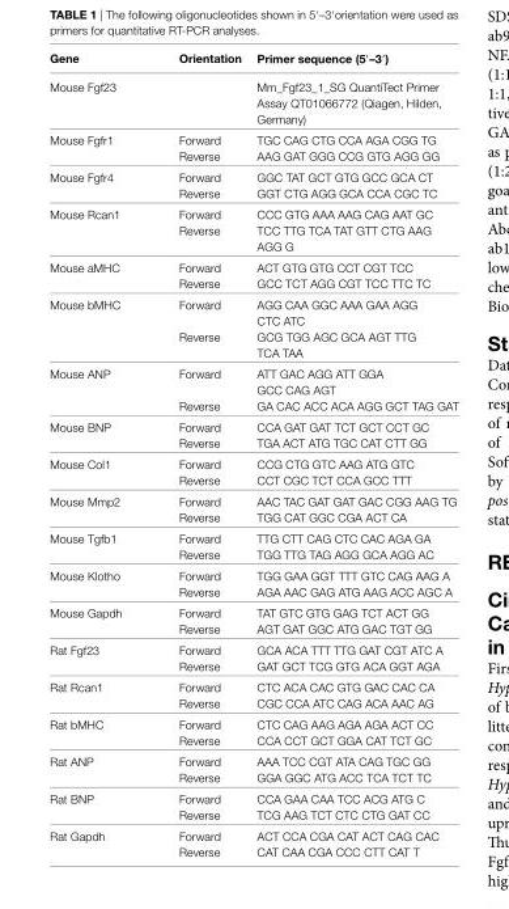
<table><thead><tr><td>gene</td><td>Orientation</td><td>Primer sequence (5′–3′)</td></tr></thead><tbody><tr><td>Mouse Fgf23</td><td></td><td>Mm_Fgf23_1_SG QuantiTect Primer Assay QT01066772 (Qiagen, Hilden, Germany)</td></tr><tr><td rowspan="2">Mouse Fgfr1</td><td>Forward</td><td>TGC CAG CTG CCA AGA CGG TG</td></tr><tr><td>Reverse</td><td>AAG GAT GGG CCG GTG AGG GG</td></tr><tr><td rowspan="2">Mouse Fgfr4</td><td>Forward</td><td>GGC TAT GCT GTG GCC GCA CT</td></tr><tr><td>Reverse</td><td>GGT CTG AGG GCA CCA CGC TC</td></tr><tr><td rowspan="2">Mouse Rcan1</td><td>Forward</td><td>CCC GTG AAA AAG CAG AAT GC</td></tr><tr><td>Reverse</td><td>TCC TTG TCA TAT GTT CTG AAG AGG G</td></tr><tr><td rowspan="2">Mouse aMHC</td><td>Forward</td><td>ACT GTG GTG CCT CGT TCC</td></tr><tr><td>Reverse</td><td>GCC TCT AGG CGT TCC TTC TC</td></tr><tr><td rowspan="2">Mouse bMHC</td><td>Forward</td><td>AGG CAA GGC AAA GAA AGG CTC ATC</td></tr><tr><td>Reverse</td><td>GCG TGG AGC GCA AGT TTG TCA TAA</td></tr><tr><td rowspan="2">Mouse ANP</td><td>Forward</td><td>ATT GAC AGG ATT GGA GCC CAG AGT</td></tr><tr><td>Reverse</td><td>GA CAC ACC ACA AGG GCT TAG GAT</td></tr><tr><td rowspan="2">Mouse BNP</td><td>Forward</td><td>CCA GAT GAT TCT GCT CCT GC</td></tr><tr><td>Reverse</td><td>TGA ACT ATG TGC CAT CTT GG</td></tr><tr><td rowspan="2">Mouse Col1</td><td>Forward</td><td>CCG CTG GTC AAG ATG GTC</td></tr><tr><td>Reverse</td><td>CCT CGC TCT CCA GCC TTT</td></tr><tr><td rowspan="2">Mouse Mmp2</td><td>Forward</td><td>AAC TAC GAT GAT GAC CGG AAG TG</td></tr><tr><td>Reverse</td><td>TGG CAT GGC CGA ACT CA</td></tr><tr><td rowspan="2">Mouse Tgfb1</td><td>Forward</td><td>TTG CTT CAG CTC CAC AGA GA</td></tr><tr><td>Reverse</td><td>TGG TTG TAG AGG GCA AGG AC</td></tr><tr><td rowspan="2">Mouse Klotho</td><td>Forward</td><td>TGG GAA GGT TTT GTC CAG AAG A</td></tr><tr><td>Reverse</td><td>AGA AAC GAG ATG AAG ACC AGC A</td></tr><tr><td rowspan="2">Mouse Gapdh</td><td>Forward</td><td>TAT GTC GTG GAG TCT ACT GG</td></tr><tr><td>Reverse</td><td>AGT GAT GGC ATG GAC TGT GG</td></tr><tr><td rowspan="2">Rat Fgf23</td><td>Forward</td><td>GCA ACA TTT TTG GAT CGT ATC A</td></tr><tr><td>Reverse</td><td>GAT GCT TCG GTG ACA GGT AGA</td></tr><tr><td rowspan="2">Rat Rcan1</td><td>Forward</td><td>CTC ACA CAC GTG GAC CAC CA</td></tr><tr><td>Reverse</td><td>CGC CCA ATC CAG ACA AAC AG</td></tr><tr><td rowspan="2">Rat bMHC</td><td>Forward</td><td>CTC CAG AAG AGA AGA ACT CC</td></tr><tr><td>Reverse</td><td>CCA CCT GCT GGA CAT TCT GC</td></tr><tr><td rowspan="2">Rat ANP</td><td>Forward</td><td>AAA TCC CGT ATA CAG TGC GG</td></tr><tr><td>Reverse</td><td>GGA GGC ATG ACC TCA TCT TC</td></tr><tr><td rowspan="2">Rat BNP</td><td>Forward</td><td>CCA GAA CAA TCC ACG ATG C</td></tr><tr><td>Reverse</td><td>TCG AAG TCT CTC CTG GAT CC</td></tr><tr><td rowspan="2">Rat Gapdh</td><td>Forward</td><td>ACT CCA CGA CAT ACT CAG CAC</td></tr><tr><td>Reverse</td><td>CAT CAA CGA CCC CTT CAT T</td></tr></tbody></table>